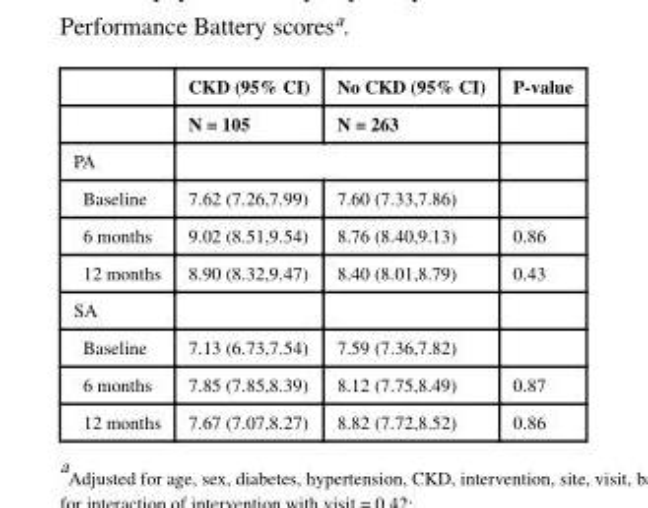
<table><thead><tr><td rowspan="2"></td><td rowspan="2">CKD (95% CI) N = 105</td><td rowspan="2">No CKD (95% CI) N = 263</td><td rowspan="2">P-value</td></tr><tr></tr></thead><tbody><tr><td colspan="4">PA</td></tr><tr><td>Baseline</td><td>7.62 (7.26,7.99)</td><td>7.60 (7.33,7.86)</td><td></td></tr><tr><td>6 months</td><td>9.02 (8.51,9.54)</td><td>8.76 (8.40,9.13)</td><td>0.86</td></tr><tr><td>12 months</td><td>8.90 (8.32,9.47)</td><td>8.40 (8.01,8.79)</td><td>0.43</td></tr><tr><td colspan="4">SA</td></tr><tr><td>Baseline</td><td>7.13 (6.73,7.54)</td><td>7.59 (7.36,7.82)</td><td></td></tr><tr><td>6 months</td><td>7.85 (7.85,8.39)</td><td>8.12 (7.75,8.49)</td><td>0.87</td></tr><tr><td>12 months</td><td>7.67 (7.07,8.27)</td><td>8.82 (7.72,8.52)</td><td>0.86</td></tr></tbody></table>